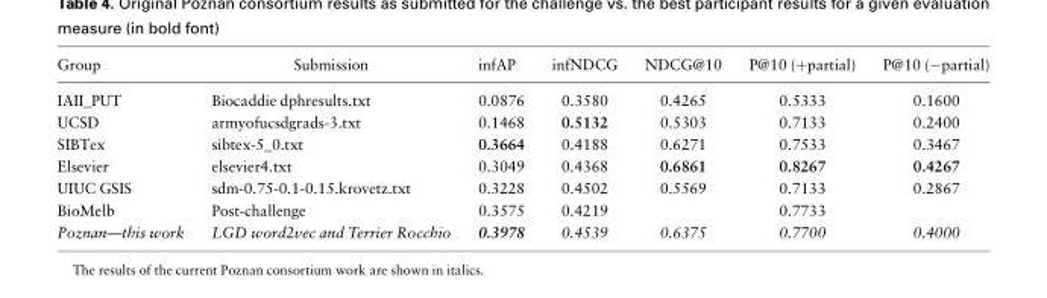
<table><thead><tr><td>Group</td><td>Submission</td><td>infAP</td><td>infNDCG</td><td>NDCG@10</td><td>P@10 (+partial)</td><td>P@10 (−partial)</td></tr></thead><tbody><tr><td>IAII_PUT</td><td>Biocaddie dphresults.txt</td><td>0.0876</td><td>0.3580</td><td>0.4265</td><td>0.5333</td><td>0.1600</td></tr><tr><td>UCSD</td><td>armyofucsdgrads-3.txt</td><td>0.1468</td><td>0.5132</td><td>0.5303</td><td>0.7133</td><td>0.2400</td></tr><tr><td>SIBTex</td><td>sibtex-5_0.txt</td><td>0.3664</td><td>0.4188</td><td>0.6271</td><td>0.7533</td><td>0.3467</td></tr><tr><td>Elsevier</td><td>elsevier4.txt</td><td>0.3049</td><td>0.4368</td><td>0.6861</td><td>0.8267</td><td>0.4267</td></tr><tr><td>UIUC GSIS</td><td>sdm-0.75-0.1-0.15.krovetz.txt</td><td>0.3228</td><td>0.4502</td><td>0.5569</td><td>0.7133</td><td>0.2867</td></tr><tr><td>BioMelb</td><td>Post-challenge</td><td>0.3575</td><td>0.4219</td><td></td><td>0.7733</td><td></td></tr><tr><td>Poznan—this work</td><td>LGD word2vec and Terrier Rocchio</td><td>0.3978</td><td>0.4539</td><td>0.6375</td><td>0.7700</td><td>0.4000</td></tr></tbody></table>